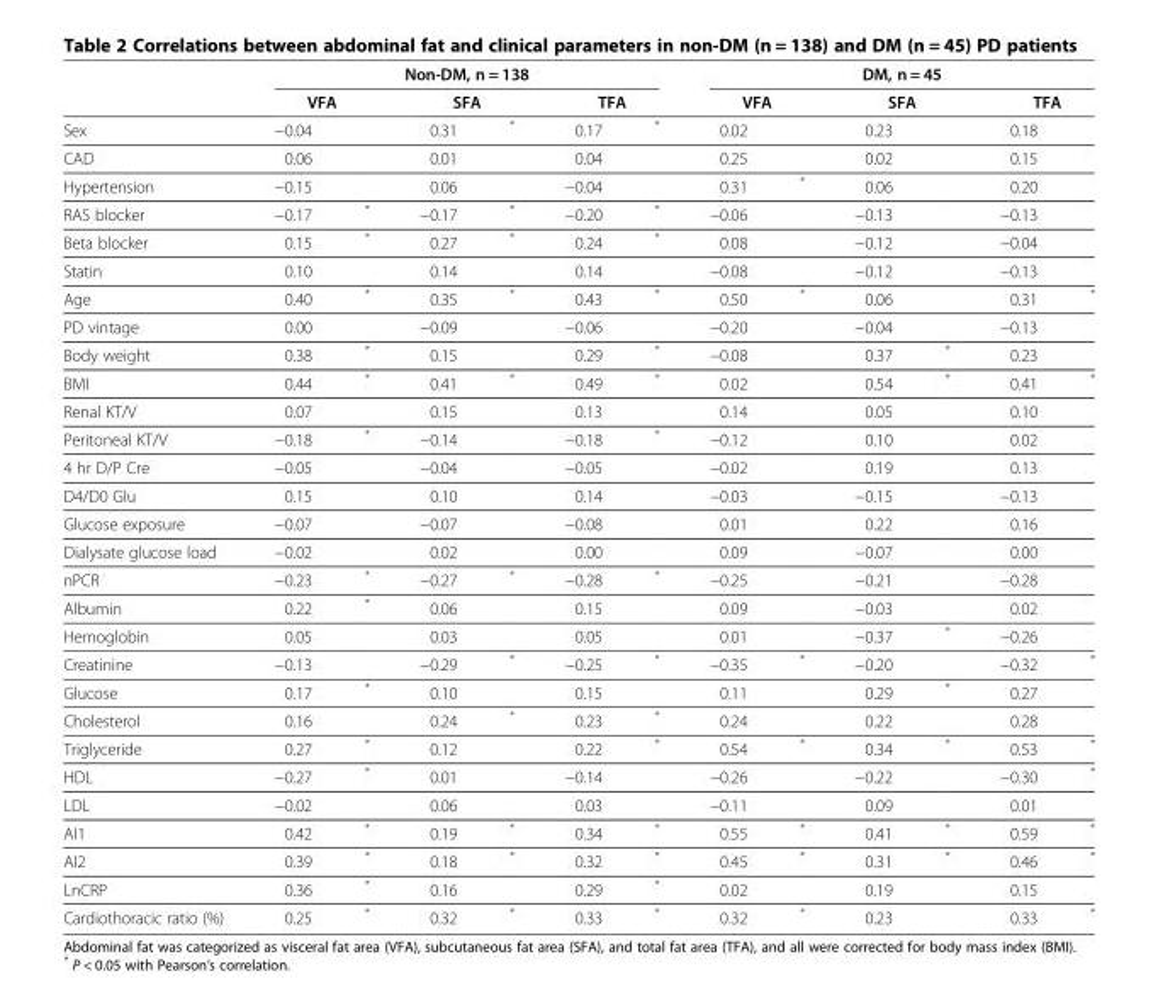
<table><thead><tr><td rowspan="3">Sex</td><td colspan="6">Non-DM, n = 138</td><td colspan="6">DM, n = 45</td></tr><tr><td colspan="2">VFA</td><td colspan="2">SFA</td><td colspan="2">TFA</td><td colspan="2">VFA</td><td colspan="2">SFA</td><td colspan="2">TFA</td></tr><tr><td>−0.04</td><td></td><td>0.31</td><td>*</td><td>0.17</td><td>*</td><td>0.02</td><td></td><td>0.23</td><td></td><td>0.18</td><td></td></tr></thead><tbody><tr><td>CAD</td><td>0.06</td><td></td><td>0.01</td><td></td><td>0.04</td><td></td><td>0.25</td><td></td><td>0.02</td><td></td><td>0.15</td><td></td></tr><tr><td>Hypertension</td><td>−0.15</td><td></td><td>0.06</td><td></td><td>−0.04</td><td></td><td>0.31</td><td>*</td><td>0.06</td><td></td><td>0.20</td><td></td></tr><tr><td>RAS blocker</td><td>−0.17</td><td>*</td><td>−0.17</td><td>*</td><td>−0.20</td><td>*</td><td>−0.06</td><td></td><td>−0.13</td><td></td><td>−0.13</td><td></td></tr><tr><td>Beta blocker</td><td>0.15</td><td>*</td><td>0.27</td><td>*</td><td>0.24</td><td>*</td><td>0.08</td><td></td><td>−0.12</td><td></td><td>−0.04</td><td></td></tr><tr><td>Statin</td><td>0.10</td><td></td><td>0.14</td><td></td><td>0.14</td><td></td><td>−0.08</td><td></td><td>−0.12</td><td></td><td>−0.13</td><td></td></tr><tr><td>Age</td><td>0.40</td><td>*</td><td>0.35</td><td>*</td><td>0.43</td><td>*</td><td>0.50</td><td>*</td><td>0.06</td><td></td><td>0.31</td><td>*</td></tr><tr><td>PD vintage</td><td>0.00</td><td></td><td>−0.09</td><td></td><td>−0.06</td><td></td><td>−0.20</td><td></td><td>−0.04</td><td></td><td>−0.13</td><td></td></tr><tr><td>Body weight</td><td>0.38</td><td>*</td><td>0.15</td><td></td><td>0.29</td><td>*</td><td>−0.08</td><td></td><td>0.37</td><td>*</td><td>0.23</td><td></td></tr><tr><td>BMI</td><td>0.44</td><td>*</td><td>0.41</td><td>*</td><td>0.49</td><td>*</td><td>0.02</td><td></td><td>0.54</td><td>*</td><td>0.41</td><td>*</td></tr><tr><td>Renal KT/V</td><td>0.07</td><td></td><td>0.15</td><td></td><td>0.13</td><td></td><td>0.14</td><td></td><td>0.05</td><td></td><td>0.10</td><td></td></tr><tr><td>Peritoneal KT/V</td><td>−0.18</td><td>*</td><td>−0.14</td><td></td><td>−0.18</td><td>*</td><td>−0.12</td><td></td><td>0.10</td><td></td><td>0.02</td><td></td></tr><tr><td>4 hr D/P Cre</td><td>−0.05</td><td></td><td>−0.04</td><td></td><td>−0.05</td><td></td><td>−0.02</td><td></td><td>0.19</td><td></td><td>0.13</td><td></td></tr><tr><td>D4/D0 Glu</td><td>0.15</td><td></td><td>0.10</td><td></td><td>0.14</td><td></td><td>−0.03</td><td></td><td>−0.15</td><td></td><td>−0.13</td><td></td></tr><tr><td>Glucose exposure</td><td>−0.07</td><td></td><td>−0.07</td><td></td><td>−0.08</td><td></td><td>0.01</td><td></td><td>0.22</td><td></td><td>0.16</td><td></td></tr><tr><td>Dialysate glucose load</td><td>−0.02</td><td></td><td>0.02</td><td></td><td>0.00</td><td></td><td>0.09</td><td></td><td>−0.07</td><td></td><td>0.00</td><td></td></tr><tr><td>nPCR</td><td>−0.23</td><td>*</td><td>−0.27</td><td>*</td><td>−0.28</td><td>*</td><td>−0.25</td><td></td><td>−0.21</td><td></td><td>−0.28</td><td></td></tr><tr><td>Albumin</td><td>0.22</td><td>*</td><td>0.06</td><td></td><td>0.15</td><td></td><td>0.09</td><td></td><td>−0.03</td><td></td><td>0.02</td><td></td></tr><tr><td>Hemoglobin</td><td>0.05</td><td></td><td>0.03</td><td></td><td>0.05</td><td></td><td>0.01</td><td></td><td>−0.37</td><td>*</td><td>−0.26</td><td></td></tr><tr><td>Creatinine</td><td>−0.13</td><td></td><td>−0.29</td><td>*</td><td>−0.25</td><td>*</td><td>−0.35</td><td>*</td><td>−0.20</td><td></td><td>−0.32</td><td>*</td></tr><tr><td>Glucose</td><td>0.17</td><td>*</td><td>0.10</td><td></td><td>0.15</td><td></td><td>0.11</td><td></td><td>0.29</td><td>*</td><td>0.27</td><td></td></tr><tr><td>Cholesterol</td><td>0.16</td><td></td><td>0.24</td><td>*</td><td>0.23</td><td>*</td><td>0.24</td><td></td><td>0.22</td><td></td><td>0.28</td><td></td></tr><tr><td>Triglyceride</td><td>0.27</td><td>*</td><td>0.12</td><td></td><td>0.22</td><td>*</td><td>0.54</td><td>*</td><td>0.34</td><td>*</td><td>0.53</td><td>*</td></tr><tr><td>HDL</td><td>−0.27</td><td>*</td><td>0.01</td><td></td><td>−0.14</td><td></td><td>−0.26</td><td></td><td>−0.22</td><td></td><td>−0.30</td><td>*</td></tr><tr><td>LDL</td><td>−0.02</td><td></td><td>0.06</td><td></td><td>0.03</td><td></td><td>−0.11</td><td></td><td>0.09</td><td></td><td>0.01</td><td></td></tr><tr><td>AI1</td><td>0.42</td><td>*</td><td>0.19</td><td>*</td><td>0.34</td><td>*</td><td>0.55</td><td>*</td><td>0.41</td><td>*</td><td>0.59</td><td>*</td></tr><tr><td>AI2</td><td>0.39</td><td>*</td><td>0.18</td><td>*</td><td>0.32</td><td>*</td><td>0.45</td><td>*</td><td>0.31</td><td>*</td><td>0.46</td><td>*</td></tr><tr><td>LnCRP</td><td>0.36</td><td>*</td><td>0.16</td><td></td><td>0.29</td><td>*</td><td>0.02</td><td></td><td>0.19</td><td></td><td>0.15</td><td></td></tr><tr><td>Cardiothoracic ratio (%)</td><td>0.25</td><td>*</td><td>0.32</td><td>*</td><td>0.33</td><td>*</td><td>0.32</td><td>*</td><td>0.23</td><td></td><td>0.33</td><td>*</td></tr></tbody></table>